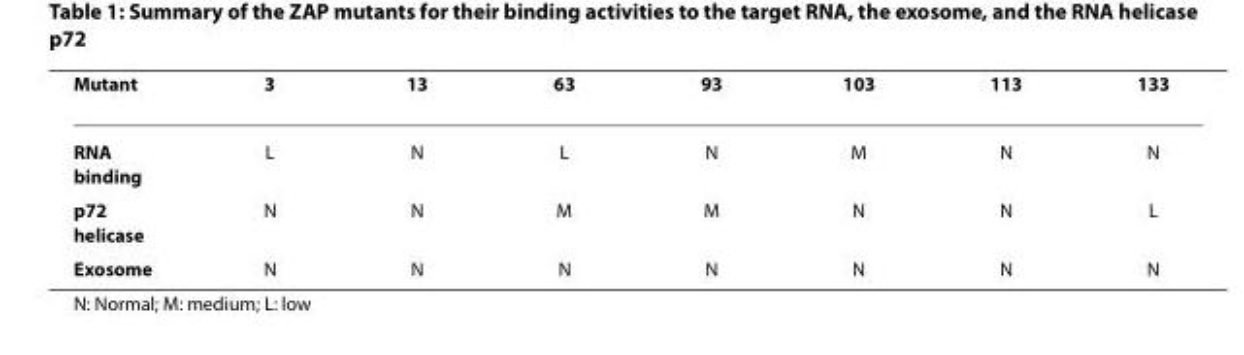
<table><thead><tr><td>Mutant</td><td>3</td><td>13</td><td>63</td><td>93</td><td>103</td><td>113</td><td>133</td></tr></thead><tbody><tr><td>RNA binding</td><td>L</td><td>N</td><td>L</td><td>N</td><td>M</td><td>N</td><td>N</td></tr><tr><td>p72 helicase</td><td>N</td><td>N</td><td>M</td><td>M</td><td>N</td><td>N</td><td>L</td></tr><tr><td>Exosome</td><td>N</td><td>N</td><td>N</td><td>N</td><td>N</td><td>N</td><td>N</td></tr></tbody></table>